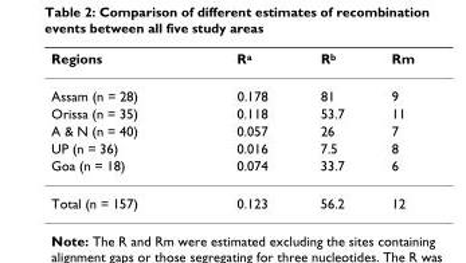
<table><thead><tr><td>Regions</td><td>R<sup>a</sup></td><td>R<sup>b</sup></td><td>Rm</td></tr></thead><tbody><tr><td>Assam (n = 28)</td><td>0.178</td><td>81</td><td>9</td></tr><tr><td>Orissa (n = 35)</td><td>0.118</td><td>53.7</td><td>11</td></tr><tr><td>A &amp; N (n = 40)</td><td>0.057</td><td>26</td><td>7</td></tr><tr><td>UP (n = 36)</td><td>0.016</td><td>7.5</td><td>8</td></tr><tr><td>Goa (n = 18)</td><td>0.074</td><td>33.7</td><td>6</td></tr><tr><td>Total (n = 157)</td><td>0.123</td><td>56.2</td><td>12</td></tr></tbody></table>